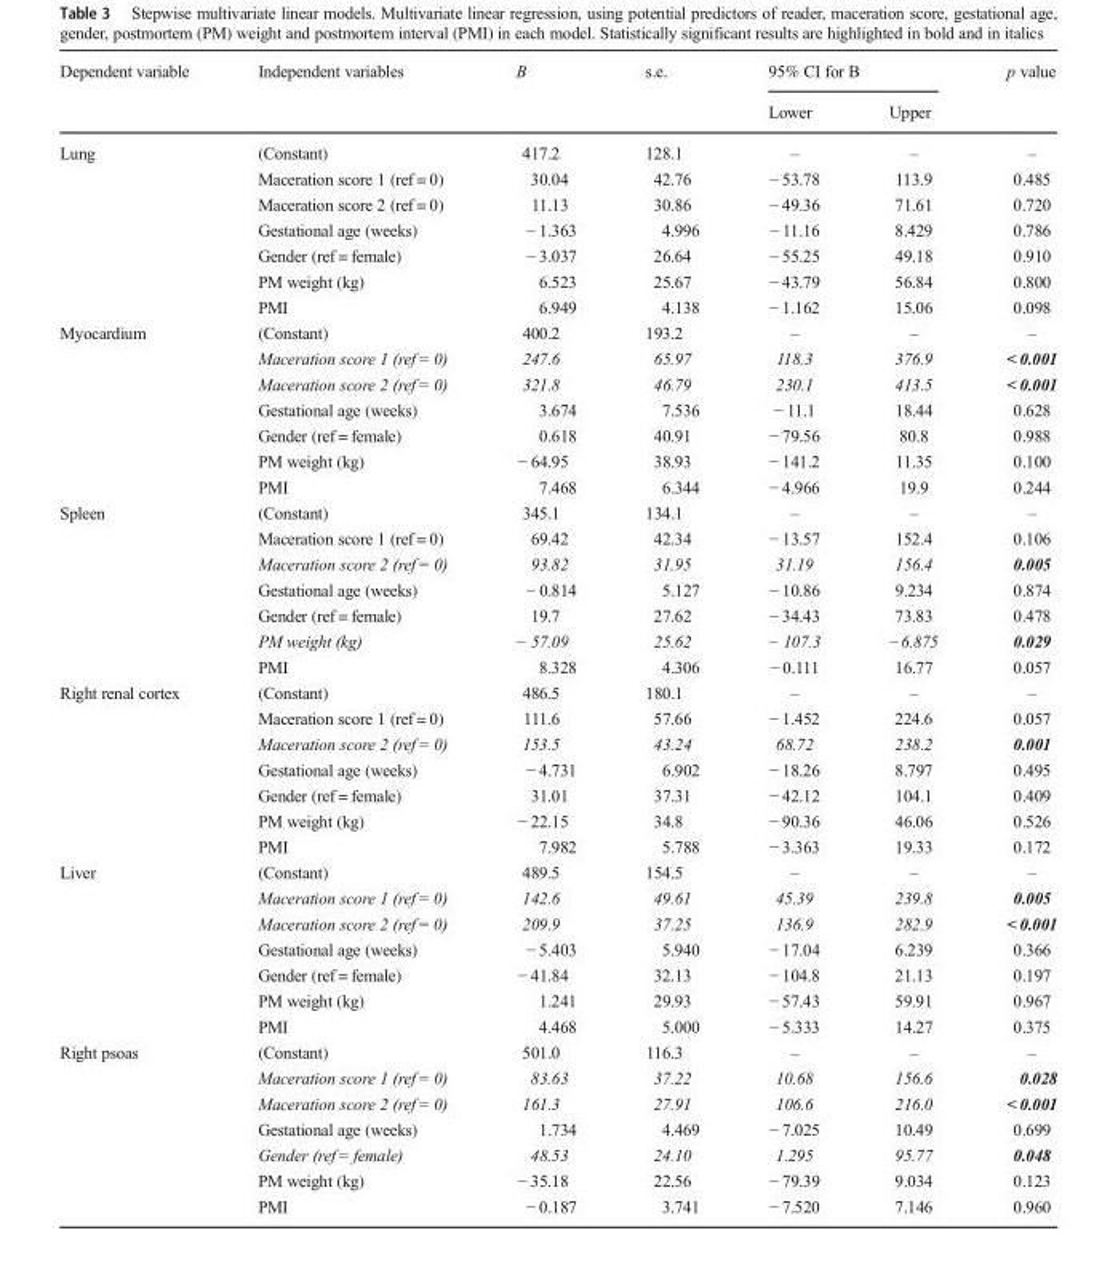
<table><thead><tr><td rowspan="2">Dependent variable</td><td rowspan="2">Independent variables</td><td rowspan="2">B</td><td rowspan="2">s.e.</td><td colspan="2">95% CI for B</td><td rowspan="2">p value</td></tr><tr><td>Lower</td><td>Upper</td></tr></thead><tbody><tr><td rowspan="7">Lung</td><td>(Constant)</td><td>417.2</td><td>128.1</td><td>–</td><td>–</td><td>–</td></tr><tr><td>Maceration score 1 (ref = 0)</td><td>30.04</td><td>42.76</td><td>− 53.78</td><td>113.9</td><td>0.485</td></tr><tr><td>Maceration score 2 (ref = 0)</td><td>11.13</td><td>30.86</td><td>− 49.36</td><td>71.61</td><td>0.720</td></tr><tr><td>Gestational age (weeks)</td><td>− 1.363</td><td>4.996</td><td>− 11.16</td><td>8.429</td><td>0.786</td></tr><tr><td>Gender (ref = female)</td><td>− 3.037</td><td>26.64</td><td>− 55.25</td><td>49.18</td><td>0.910</td></tr><tr><td>PM weight (kg)</td><td>6.523</td><td>25.67</td><td>− 43.79</td><td>56.84</td><td>0.800</td></tr><tr><td>PMI</td><td>6.949</td><td>4.138</td><td>− 1.162</td><td>15.06</td><td>0.098</td></tr><tr><td rowspan="7">Myocardium</td><td>(Constant)</td><td>400.2</td><td>193.2</td><td>–</td><td>–</td><td>–</td></tr><tr><td>Maceration score 1 (ref = 0)</td><td>247.6</td><td>65.97</td><td>118.3</td><td>376.9</td><td>&lt; 0.001</td></tr><tr><td>Maceration score 2 (ref = 0)</td><td>321.8</td><td>46.79</td><td>230.1</td><td>413.5</td><td>&lt; 0.001</td></tr><tr><td>Gestational age (weeks)</td><td>3.674</td><td>7.536</td><td>− 11.1</td><td>18.44</td><td>0.628</td></tr><tr><td>Gender (ref = female)</td><td>0.618</td><td>40.91</td><td>− 79.56</td><td>80.8</td><td>0.988</td></tr><tr><td>PM weight (kg)</td><td>− 64.95</td><td>38.93</td><td>− 141.2</td><td>11.35</td><td>0.100</td></tr><tr><td>PMI</td><td>7.468</td><td>6.344</td><td>− 4.966</td><td>19.9</td><td>0.244</td></tr><tr><td rowspan="7">Spleen</td><td>(Constant)</td><td>345.1</td><td>134.1</td><td>–</td><td>–</td><td>–</td></tr><tr><td>Maceration score 1 (ref = 0)</td><td>69.42</td><td>42.34</td><td>− 13.57</td><td>152.4</td><td>0.106</td></tr><tr><td>Maceration score 2 (ref = 0)</td><td>93.82</td><td>31.95</td><td>31.19</td><td>156.4</td><td>0.005</td></tr><tr><td>Gestational age (weeks)</td><td>− 0.814</td><td>5.127</td><td>− 10.86</td><td>9.234</td><td>0.874</td></tr><tr><td>Gender (ref = female)</td><td>19.7</td><td>27.62</td><td>− 34.43</td><td>73.83</td><td>0.478</td></tr><tr><td>PM weight (kg)</td><td>− 57.09</td><td>25.62</td><td>− 107.3</td><td>−6.875</td><td>0.029</td></tr><tr><td>PMI</td><td>8.328</td><td>4.306</td><td>− 0.111</td><td>16.77</td><td>0.057</td></tr><tr><td rowspan="7">Right renal cortex</td><td>(Constant)</td><td>486.5</td><td>180.1</td><td>–</td><td>–</td><td>–</td></tr><tr><td>Maceration score 1 (ref = 0)</td><td>111.6</td><td>57.66</td><td>− 1.452</td><td>224.6</td><td>0.057</td></tr><tr><td>Maceration score 2 (ref = 0)</td><td>153.5</td><td>43.24</td><td>68.72</td><td>238.2</td><td>0.001</td></tr><tr><td>Gestational age (weeks)</td><td>− 4.731</td><td>6.902</td><td>− 18.26</td><td>8.797</td><td>0.495</td></tr><tr><td>Gender (ref = female)</td><td>31.01</td><td>37.31</td><td>− 42.12</td><td>104.1</td><td>0.409</td></tr><tr><td>PM weight (kg)</td><td>− 22.15</td><td>34.8</td><td>− 90.36</td><td>46.06</td><td>0.526</td></tr><tr><td>PMI</td><td>7.982</td><td>5.788</td><td>− 3.363</td><td>19.33</td><td>0.172</td></tr><tr><td rowspan="7">Liver</td><td>(Constant)</td><td>489.5</td><td>154.5</td><td>–</td><td>–</td><td>–</td></tr><tr><td>Maceration score 1 (ref = 0)</td><td>142.6</td><td>49.61</td><td>45.39</td><td>239.8</td><td>0.005</td></tr><tr><td>Maceration score 2 (ref = 0)</td><td>209.9</td><td>37.25</td><td>136.9</td><td>282.9</td><td>&lt; 0.001</td></tr><tr><td>Gestational age (weeks)</td><td>− 5.403</td><td>5.940</td><td>− 17.04</td><td>6.239</td><td>0.366</td></tr><tr><td>Gender (ref = female)</td><td>− 41.84</td><td>32.13</td><td>− 104.8</td><td>21.13</td><td>0.197</td></tr><tr><td>PM weight (kg)</td><td>1.241</td><td>29.93</td><td>− 57.43</td><td>59.91</td><td>0.967</td></tr><tr><td>PMI</td><td>4.468</td><td>5.000</td><td>− 5.333</td><td>14.27</td><td>0.375</td></tr><tr><td rowspan="7">Right psoas</td><td>(Constant)</td><td>501.0</td><td>116.3</td><td>–</td><td>–</td><td>–</td></tr><tr><td>Maceration score 1 (ref = 0)</td><td>83.63</td><td>37.22</td><td>10.68</td><td>156.6</td><td>0.028</td></tr><tr><td>Maceration score 2 (ref = 0)</td><td>161.3</td><td>27.91</td><td>106.6</td><td>216.0</td><td>&lt; 0.001</td></tr><tr><td>Gestational age (weeks)</td><td>1.734</td><td>4.469</td><td>− 7.025</td><td>10.49</td><td>0.699</td></tr><tr><td>Gender (ref = female)</td><td>48.53</td><td>24.10</td><td>1.295</td><td>95.77</td><td>0.048</td></tr><tr><td>PM weight (kg)</td><td>− 35.18</td><td>22.56</td><td>− 79.39</td><td>9.034</td><td>0.123</td></tr><tr><td>PMI</td><td>− 0.187</td><td>3.741</td><td>− 7.520</td><td>7.146</td><td>0.960</td></tr></tbody></table>